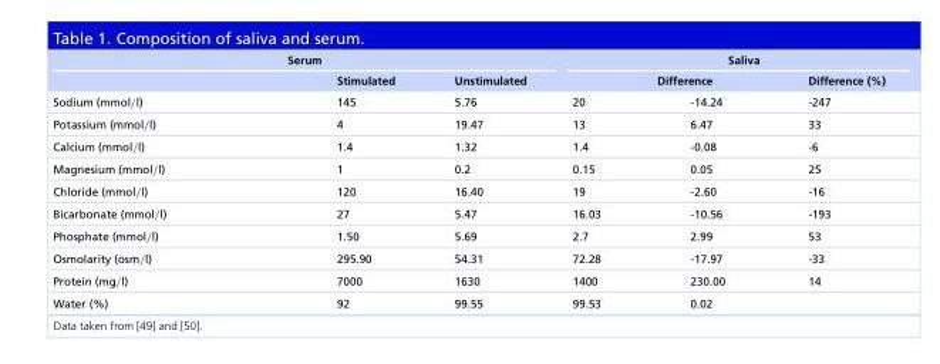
<table><thead><tr><td colspan="3">Serum</td><td colspan="3">Saliva</td></tr><tr><td rowspan="2">Sodium (mmol/l)</td><td rowspan="2">Stimulated 145</td><td rowspan="2">Unstimulated 5.76</td><td colspan="2">Difference</td><td rowspan="2">Difference (%) -247</td></tr><tr><td>20</td><td>-14.24</td></tr></thead><tbody><tr><td>Potassium (mmol/l)</td><td>4</td><td>19.47</td><td>13</td><td>6.47</td><td>33</td></tr><tr><td>Calcium (mmol/l)</td><td>1.4</td><td>1.32</td><td>1.4</td><td>-0.08</td><td>-6</td></tr><tr><td>Magnesium (mmol/l)</td><td>1</td><td>0.2</td><td>0.15</td><td>0.05</td><td>25</td></tr><tr><td>Chloride (mmol/l)</td><td>120</td><td>16.40</td><td>19</td><td>-2.60</td><td>-16</td></tr><tr><td>Bicarbonate (mmol/l)</td><td>27</td><td>5.47</td><td>16.03</td><td>-10.56</td><td>-193</td></tr><tr><td>Phosphate (mmol/l)</td><td>1.50</td><td>5.69</td><td>2.7</td><td>2.99</td><td>53</td></tr><tr><td>Osmolarity (osm/l)</td><td>295.90</td><td>54.31</td><td>72.28</td><td>-17.97</td><td>-33</td></tr><tr><td>Protein (mg/l)</td><td>7000</td><td>1630</td><td>1400</td><td>230.00</td><td>14</td></tr><tr><td>Water (%)</td><td>92</td><td>99.55</td><td>99.53</td><td colspan="2">0.02</td></tr></tbody></table>